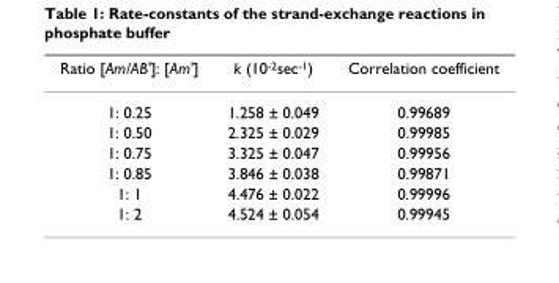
<table><thead><tr><td>Ratio [Am/AB&#x27;]: [Am&#x27;]</td><td>k (10<sup>-2</sup>sec<sup>-1</sup>)</td><td>Correlation coefficient</td></tr></thead><tbody><tr><td>1: 0.25</td><td>1.258 ± 0.049</td><td>0.99689</td></tr><tr><td>1: 0.50</td><td>2.325 ± 0.029</td><td>0.99985</td></tr><tr><td>1: 0.75</td><td>3.325 ± 0.047</td><td>0.99956</td></tr><tr><td>1: 0.85</td><td>3.846 ± 0.038</td><td>0.99871</td></tr><tr><td>1: 1</td><td>4.476 ± 0.022</td><td>0.99996</td></tr><tr><td>1: 2</td><td>4.524 ± 0.054</td><td>0.99945</td></tr></tbody></table>